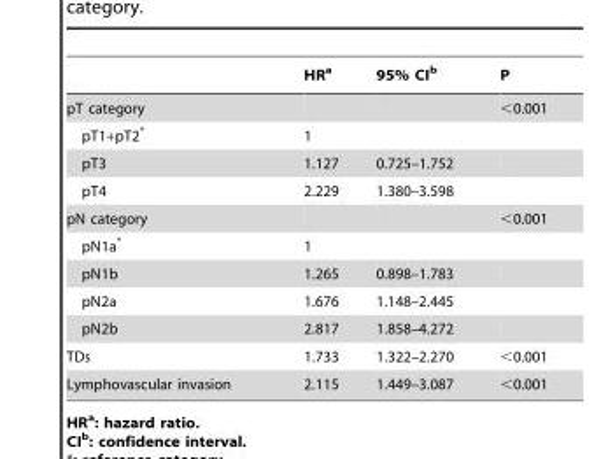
<table><thead><tr><td></td><td>HR<sup>a</sup></td><td>95% CI<sup>b</sup></td><td>P</td></tr></thead><tbody><tr><td>pT category</td><td></td><td></td><td>&lt;0.001</td></tr><tr><td>pT1+pT2*</td><td>1</td><td></td><td></td></tr><tr><td>pT3</td><td>1.127</td><td>0.725–1.752</td><td></td></tr><tr><td>pT4</td><td>2.229</td><td>1.380–3.598</td><td></td></tr><tr><td>pN category</td><td></td><td></td><td>&lt;0.001</td></tr><tr><td>pN1a*</td><td>1</td><td></td><td></td></tr><tr><td>pN1b</td><td>1.265</td><td>0.898–1.783</td><td></td></tr><tr><td>pN2a</td><td>1.676</td><td>1.148–2.445</td><td></td></tr><tr><td>pN2b</td><td>2.817</td><td>1.858–4.272</td><td></td></tr><tr><td>TDs</td><td>1.733</td><td>1.322–2.270</td><td>&lt;0.001</td></tr><tr><td>Lymphovascular invasion</td><td>2.115</td><td>1.449–3.087</td><td>&lt;0.001</td></tr></tbody></table>